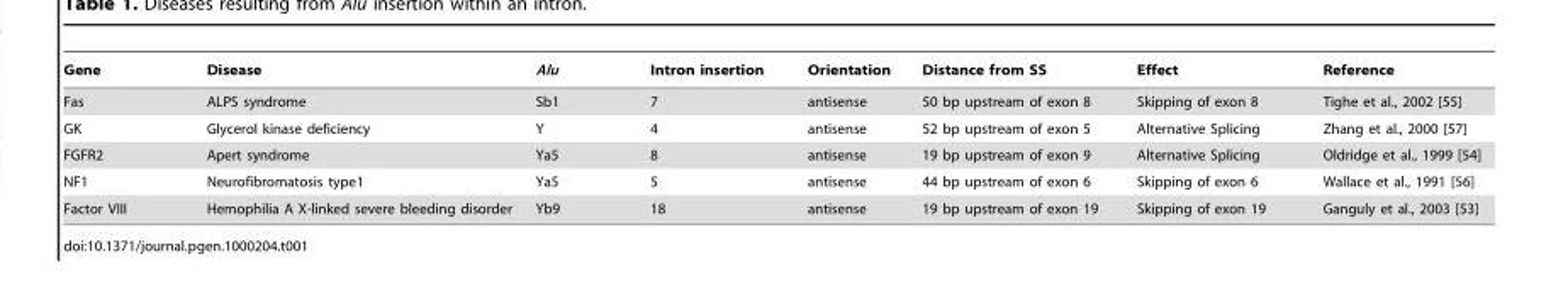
<table><thead><tr><td>Gene</td><td>Disease</td><td>Alu</td><td>Intron insertion</td><td>Orientation</td><td>Distance from SS</td><td>Effect</td><td>Reference</td></tr></thead><tbody><tr><td>Fas</td><td>ALPS syndrome</td><td>Sb1</td><td>7</td><td>antisense</td><td>50 bp upstream of exon 8</td><td>Skipping of exon 8</td><td>Tighe et al., 2002 [55]</td></tr><tr><td>GK</td><td>Glycerol kinase deficiency</td><td>Y</td><td>4</td><td>antisense</td><td>52 bp upstream of exon 5</td><td>Alternative Splicing</td><td>Zhang et al., 2000 [57]</td></tr><tr><td>FGFR2</td><td>Apert syndrome</td><td>Ya5</td><td>8</td><td>antisense</td><td>19 bp upstream of exon 9</td><td>Alternative Splicing</td><td>Oldridge et al., 1999 [54]</td></tr><tr><td>NF1</td><td>Neurofibromatosis type1</td><td>Ya5</td><td>5</td><td>antisense</td><td>44 bp upstream of exon 6</td><td>Skipping of exon 6</td><td>Wallace et al., 1991 [56]</td></tr><tr><td>Factor VIII</td><td>Hemophilia A X-linked severe bleeding disorder</td><td>Yb9</td><td>18</td><td>antisense</td><td>19 bp upstream of exon 19</td><td>Skipping of exon 19</td><td>Ganguly et al., 2003 [53]</td></tr></tbody></table>